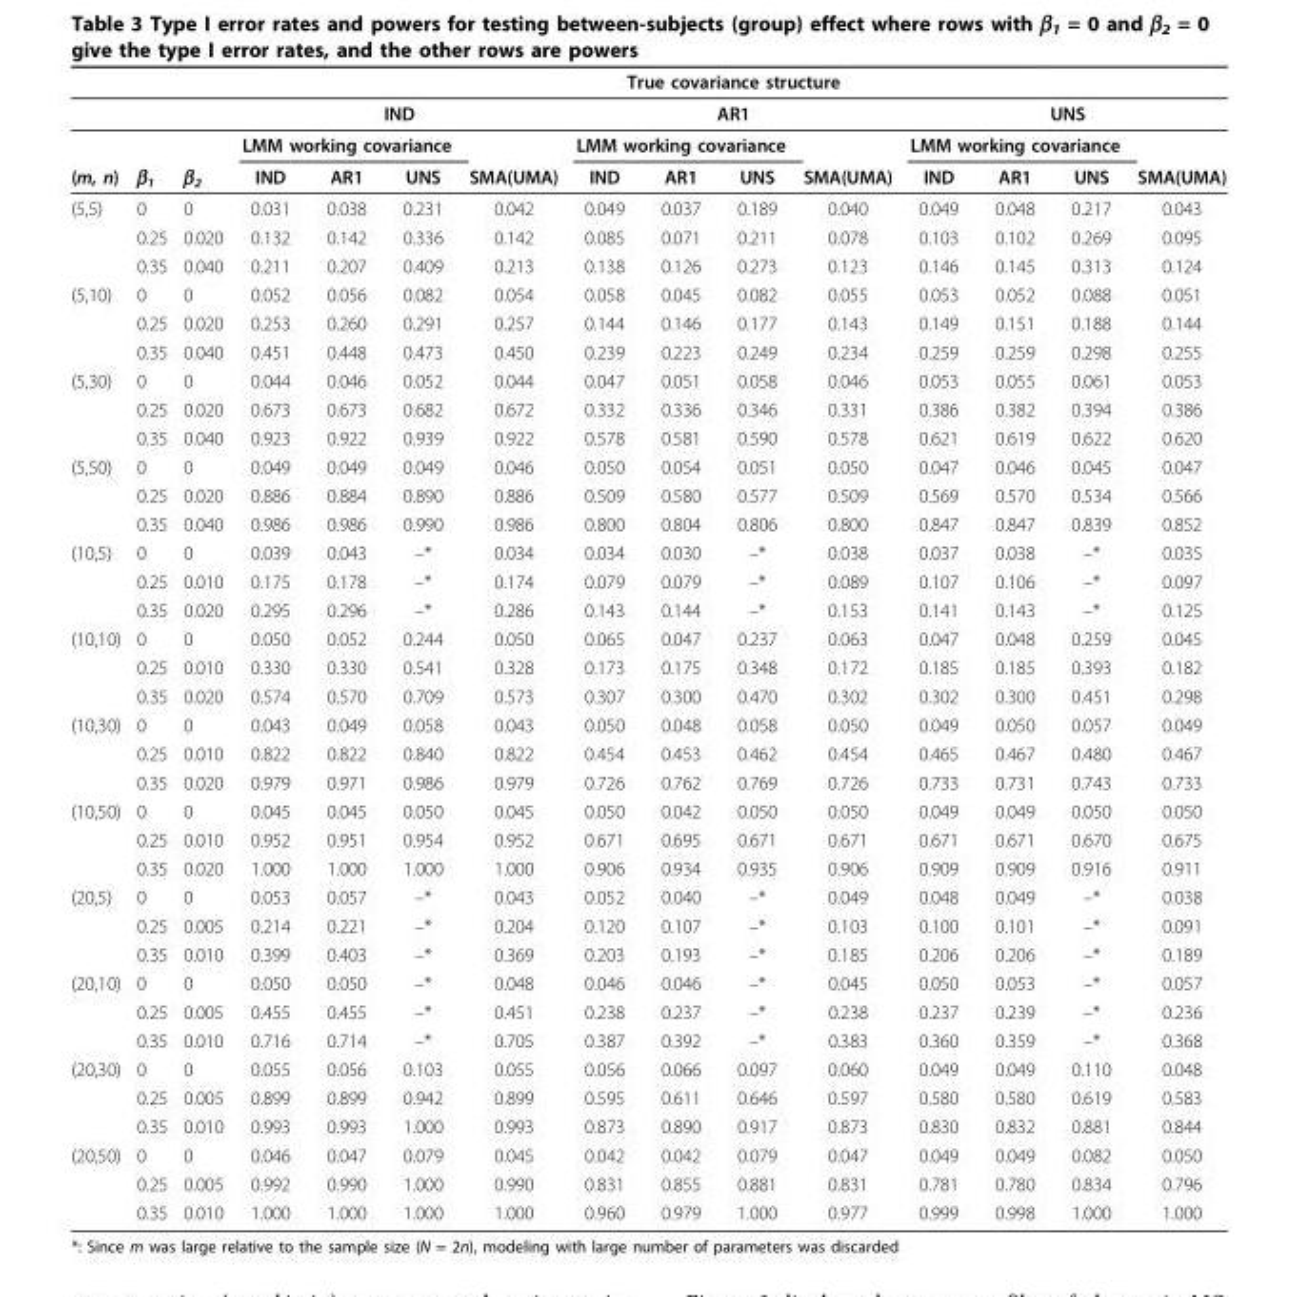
<table><thead><tr><td rowspan="4">(m, n)</td><td rowspan="4">β<sub>1</sub></td><td rowspan="4">β<sub>2</sub></td><td colspan="12">True covariance structure</td></tr><tr><td colspan="4">IND</td><td colspan="4">AR1</td><td colspan="4">UNS</td></tr><tr><td colspan="3">LMM working covariance</td><td rowspan="2">SMA(UMA)</td><td colspan="3">LMM working covariance</td><td rowspan="2">SMA(UMA)</td><td colspan="3">LMM working covariance</td><td rowspan="2">SMA(UMA)</td></tr><tr><td>IND</td><td>AR1</td><td>UNS</td><td>IND</td><td>AR1</td><td>UNS</td><td>IND</td><td>AR1</td><td>UNS</td></tr></thead><tbody><tr><td rowspan="3">(5,5)</td><td>0</td><td>0</td><td>0.031</td><td>0.038</td><td>0.231</td><td>0.042</td><td>0.049</td><td>0.037</td><td>0.189</td><td>0.040</td><td>0.049</td><td>0.048</td><td>0.217</td><td>0.043</td></tr><tr><td>0.25</td><td>0.020</td><td>0.132</td><td>0.142</td><td>0.336</td><td>0.142</td><td>0.085</td><td>0.071</td><td>0.211</td><td>0.078</td><td>0.103</td><td>0.102</td><td>0.269</td><td>0.095</td></tr><tr><td>0.35</td><td>0.040</td><td>0.211</td><td>0.207</td><td>0.409</td><td>0.213</td><td>0.138</td><td>0.126</td><td>0.273</td><td>0.123</td><td>0.146</td><td>0.145</td><td>0.313</td><td>0.124</td></tr><tr><td rowspan="3">(5,10)</td><td>0</td><td>0</td><td>0.052</td><td>0.056</td><td>0.082</td><td>0.054</td><td>0.058</td><td>0.045</td><td>0.082</td><td>0.055</td><td>0.053</td><td>0.052</td><td>0.088</td><td>0.051</td></tr><tr><td>0.25</td><td>0.020</td><td>0.253</td><td>0.260</td><td>0.291</td><td>0.257</td><td>0.144</td><td>0.146</td><td>0.177</td><td>0.143</td><td>0.149</td><td>0.151</td><td>0.188</td><td>0.144</td></tr><tr><td>0.35</td><td>0.040</td><td>0.451</td><td>0.448</td><td>0.473</td><td>0.450</td><td>0.239</td><td>0.223</td><td>0.249</td><td>0.234</td><td>0.259</td><td>0.259</td><td>0.298</td><td>0.255</td></tr><tr><td rowspan="3">(5,30)</td><td>0</td><td>0</td><td>0.044</td><td>0.046</td><td>0.052</td><td>0.044</td><td>0.047</td><td>0.051</td><td>0.058</td><td>0.046</td><td>0.053</td><td>0.055</td><td>0.061</td><td>0.053</td></tr><tr><td>0.25</td><td>0.020</td><td>0.673</td><td>0.673</td><td>0.682</td><td>0.672</td><td>0.332</td><td>0.336</td><td>0.346</td><td>0.331</td><td>0.386</td><td>0.382</td><td>0.394</td><td>0.386</td></tr><tr><td>0.35</td><td>0.040</td><td>0.923</td><td>0.922</td><td>0.939</td><td>0.922</td><td>0.578</td><td>0.581</td><td>0.590</td><td>0.578</td><td>0.621</td><td>0.619</td><td>0.622</td><td>0.620</td></tr><tr><td rowspan="3">(5,50)</td><td>0</td><td>0</td><td>0.049</td><td>0.049</td><td>0.049</td><td>0.046</td><td>0.050</td><td>0.054</td><td>0.051</td><td>0.050</td><td>0.047</td><td>0.046</td><td>0.045</td><td>0.047</td></tr><tr><td>0.25</td><td>0.020</td><td>0.886</td><td>0.884</td><td>0.890</td><td>0.886</td><td>0.509</td><td>0.580</td><td>0.577</td><td>0.509</td><td>0.569</td><td>0.570</td><td>0.534</td><td>0.566</td></tr><tr><td>0.35</td><td>0.040</td><td>0.986</td><td>0.986</td><td>0.990</td><td>0.986</td><td>0.800</td><td>0.804</td><td>0.806</td><td>0.800</td><td>0.847</td><td>0.847</td><td>0.839</td><td>0.852</td></tr><tr><td rowspan="3">(10,5)</td><td>0</td><td>0</td><td>0.039</td><td>0.043</td><td>–*</td><td>0.034</td><td>0.034</td><td>0.030</td><td>–*</td><td>0.038</td><td>0.037</td><td>0.038</td><td>–*</td><td>0.035</td></tr><tr><td>0.25</td><td>0.010</td><td>0.175</td><td>0.178</td><td>–*</td><td>0.174</td><td>0.079</td><td>0.079</td><td>–*</td><td>0.089</td><td>0.107</td><td>0.106</td><td>–*</td><td>0.097</td></tr><tr><td>0.35</td><td>0.020</td><td>0.295</td><td>0.296</td><td>–*</td><td>0.286</td><td>0.143</td><td>0.144</td><td>–*</td><td>0.153</td><td>0.141</td><td>0.143</td><td>–*</td><td>0.125</td></tr><tr><td rowspan="3">(10,10)</td><td>0</td><td>0</td><td>0.050</td><td>0.052</td><td>0.244</td><td>0.050</td><td>0.065</td><td>0.047</td><td>0.237</td><td>0.063</td><td>0.047</td><td>0.048</td><td>0.259</td><td>0.045</td></tr><tr><td>0.25</td><td>0.010</td><td>0.330</td><td>0.330</td><td>0.541</td><td>0.328</td><td>0.173</td><td>0.175</td><td>0.348</td><td>0.172</td><td>0.185</td><td>0.185</td><td>0.393</td><td>0.182</td></tr><tr><td>0.35</td><td>0.020</td><td>0.574</td><td>0.570</td><td>0.709</td><td>0.573</td><td>0.307</td><td>0.300</td><td>0.470</td><td>0.302</td><td>0.302</td><td>0.300</td><td>0.451</td><td>0.298</td></tr><tr><td rowspan="3">(10,30)</td><td>0</td><td>0</td><td>0.043</td><td>0.049</td><td>0.058</td><td>0.043</td><td>0.050</td><td>0.048</td><td>0.058</td><td>0.050</td><td>0.049</td><td>0.050</td><td>0.057</td><td>0.049</td></tr><tr><td>0.25</td><td>0.010</td><td>0.822</td><td>0.822</td><td>0.840</td><td>0.822</td><td>0.454</td><td>0.453</td><td>0.462</td><td>0.454</td><td>0.465</td><td>0.467</td><td>0.480</td><td>0.467</td></tr><tr><td>0.35</td><td>0.020</td><td>0.979</td><td>0.971</td><td>0.986</td><td>0.979</td><td>0.726</td><td>0.762</td><td>0.769</td><td>0.726</td><td>0.733</td><td>0.731</td><td>0.743</td><td>0.733</td></tr><tr><td rowspan="3">(10,50)</td><td>0</td><td>0</td><td>0.045</td><td>0.045</td><td>0.050</td><td>0.045</td><td>0.050</td><td>0.042</td><td>0.050</td><td>0.050</td><td>0.049</td><td>0.049</td><td>0.050</td><td>0.050</td></tr><tr><td>0.25</td><td>0.010</td><td>0.952</td><td>0.951</td><td>0.954</td><td>0.952</td><td>0.671</td><td>0.695</td><td>0.671</td><td>0.671</td><td>0.671</td><td>0.671</td><td>0.670</td><td>0.675</td></tr><tr><td>0.35</td><td>0.020</td><td>1.000</td><td>1.000</td><td>1.000</td><td>1.000</td><td>0.906</td><td>0.934</td><td>0.935</td><td>0.906</td><td>0.909</td><td>0.909</td><td>0.916</td><td>0.911</td></tr><tr><td rowspan="3">(20,5)</td><td>0</td><td>0</td><td>0.053</td><td>0.057</td><td>–*</td><td>0.043</td><td>0.052</td><td>0.040</td><td>–*</td><td>0.049</td><td>0.048</td><td>0.049</td><td>–*</td><td>0.038</td></tr><tr><td>0.25</td><td>0.005</td><td>0.214</td><td>0.221</td><td>–*</td><td>0.204</td><td>0.120</td><td>0.107</td><td>–*</td><td>0.103</td><td>0.100</td><td>0.101</td><td>–*</td><td>0.091</td></tr><tr><td>0.35</td><td>0.010</td><td>0.399</td><td>0.403</td><td>–*</td><td>0.369</td><td>0.203</td><td>0.193</td><td>–*</td><td>0.185</td><td>0.206</td><td>0.206</td><td>–*</td><td>0.189</td></tr><tr><td rowspan="3">(20,10)</td><td>0</td><td>0</td><td>0.050</td><td>0.050</td><td>–*</td><td>0.048</td><td>0.046</td><td>0.046</td><td>–*</td><td>0.045</td><td>0.050</td><td>0.053</td><td>–*</td><td>0.057</td></tr><tr><td>0.25</td><td>0.005</td><td>0.455</td><td>0.455</td><td>–*</td><td>0.451</td><td>0.238</td><td>0.237</td><td>–*</td><td>0.238</td><td>0.237</td><td>0.239</td><td>–*</td><td>0.236</td></tr><tr><td>0.35</td><td>0.010</td><td>0.716</td><td>0.714</td><td>–*</td><td>0.705</td><td>0.387</td><td>0.392</td><td>–*</td><td>0.383</td><td>0.360</td><td>0.359</td><td>–*</td><td>0.368</td></tr><tr><td rowspan="3">(20,30)</td><td>0</td><td>0</td><td>0.055</td><td>0.056</td><td>0.103</td><td>0.055</td><td>0.056</td><td>0.066</td><td>0.097</td><td>0.060</td><td>0.049</td><td>0.049</td><td>0.110</td><td>0.048</td></tr><tr><td>0.25</td><td>0.005</td><td>0.899</td><td>0.899</td><td>0.942</td><td>0.899</td><td>0.595</td><td>0.611</td><td>0.646</td><td>0.597</td><td>0.580</td><td>0.580</td><td>0.619</td><td>0.583</td></tr><tr><td>0.35</td><td>0.010</td><td>0.993</td><td>0.993</td><td>1.000</td><td>0.993</td><td>0.873</td><td>0.890</td><td>0.917</td><td>0.873</td><td>0.830</td><td>0.832</td><td>0.881</td><td>0.844</td></tr><tr><td rowspan="3">(20,50)</td><td>0</td><td>0</td><td>0.046</td><td>0.047</td><td>0.079</td><td>0.045</td><td>0.042</td><td>0.042</td><td>0.079</td><td>0.047</td><td>0.049</td><td>0.049</td><td>0.082</td><td>0.050</td></tr><tr><td>0.25</td><td>0.005</td><td>0.992</td><td>0.990</td><td>1.000</td><td>0.990</td><td>0.831</td><td>0.855</td><td>0.881</td><td>0.831</td><td>0.781</td><td>0.780</td><td>0.834</td><td>0.796</td></tr><tr><td>0.35</td><td>0.010</td><td>1.000</td><td>1.000</td><td>1.000</td><td>1.000</td><td>0.960</td><td>0.979</td><td>1.000</td><td>0.977</td><td>0.999</td><td>0.998</td><td>1.000</td><td>1.000</td></tr></tbody></table>